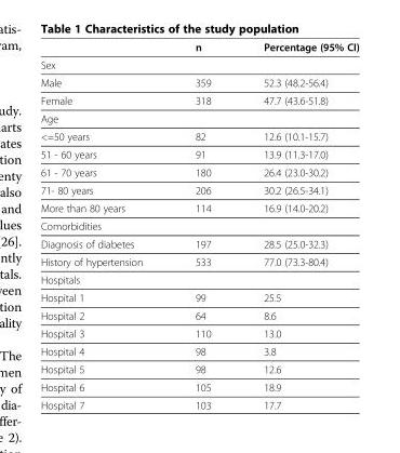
<table><thead><tr><td></td><td>n</td><td>Percentage (95% CI)</td></tr></thead><tbody><tr><td colspan="3">Sex</td></tr><tr><td>Male</td><td>359</td><td>52.3 (48.2-56.4)</td></tr><tr><td>Female</td><td>318</td><td>47.7 (43.6-51.8)</td></tr><tr><td colspan="3">Age</td></tr><tr><td>&lt;=50 years</td><td>82</td><td>12.6 (10.1-15.7)</td></tr><tr><td>51 - 60 years</td><td>91</td><td>13.9 (11.3-17.0)</td></tr><tr><td>61 - 70 years</td><td>180</td><td>26.4 (23.0-30.2)</td></tr><tr><td>71- 80 years</td><td>206</td><td>30.2 (26.5-34.1)</td></tr><tr><td>More than 80 years</td><td>114</td><td>16.9 (14.0-20.2)</td></tr><tr><td colspan="3">Comorbidities</td></tr><tr><td>Diagnosis of diabetes</td><td>197</td><td>28.5 (25.0-32.3)</td></tr><tr><td>History of hypertension</td><td>533</td><td>77.0 (73.3-80.4)</td></tr><tr><td colspan="3">Hospitals</td></tr><tr><td>Hospital 1</td><td>99</td><td>25.5</td></tr><tr><td>Hospital 2</td><td>64</td><td>8.6</td></tr><tr><td>Hospital 3</td><td>110</td><td>13.0</td></tr><tr><td>Hospital 4</td><td>98</td><td>3.8</td></tr><tr><td>Hospital 5</td><td>98</td><td>12.6</td></tr><tr><td>Hospital 6</td><td>105</td><td>18.9</td></tr><tr><td>Hospital 7</td><td>103</td><td>17.7</td></tr></tbody></table>